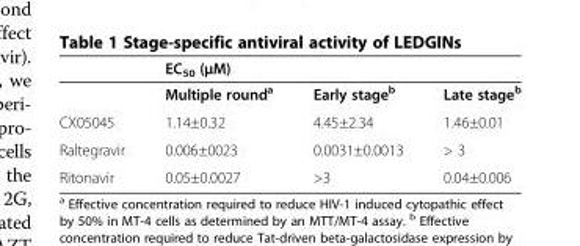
<table><thead><tr><td rowspan="2"></td><td colspan="3">EC<sub>50</sub> (μM)</td></tr><tr><td>Multiple round<sup>a</sup></td><td>Early stage<sup>b</sup></td><td>Late stage<sup>b</sup></td></tr></thead><tbody><tr><td>CX05045</td><td>1.14±0.32</td><td>4.45±2.34</td><td>1.46±0.01</td></tr><tr><td>Raltegravir</td><td>0.006±0023</td><td>0.0031±0.0013</td><td>&gt; 3</td></tr><tr><td>Ritonavir</td><td>0.05±0.0027</td><td>&gt;3</td><td>0.04±0.006</td></tr></tbody></table>